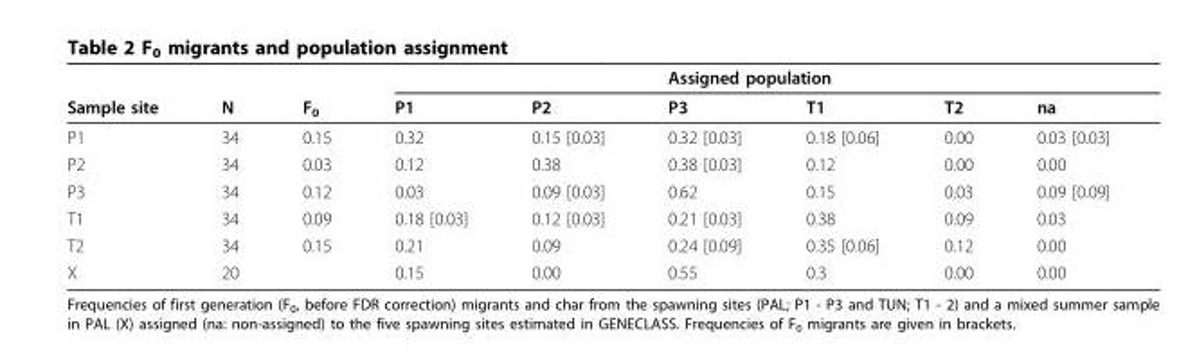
<table><thead><tr><td rowspan="2">Sample site</td><td rowspan="2">N</td><td rowspan="2">F<sub>0</sub></td><td rowspan="2">P1</td><td rowspan="2">P2</td><td colspan="2">Assigned population</td><td rowspan="2">T2</td><td rowspan="2">na</td></tr><tr><td>P3</td><td>T1</td></tr></thead><tbody><tr><td>P1</td><td>34</td><td>0.15</td><td>0.32</td><td>0.15 [0.03]</td><td>0.32 [0.03]</td><td>0.18 [0.06]</td><td>0.00</td><td>0.03 [0.03]</td></tr><tr><td>P2</td><td>34</td><td>0.03</td><td>0.12</td><td>0.38</td><td>0.38 [0.03]</td><td>0.12</td><td>0.00</td><td>0.00</td></tr><tr><td>P3</td><td>34</td><td>0.12</td><td>0.03</td><td>0.09 [0.03]</td><td>0.62</td><td>0.15</td><td>0.03</td><td>0.09 [0.09]</td></tr><tr><td>T1</td><td>34</td><td>0.09</td><td>0.18 [0.03]</td><td>0.12 [0.03]</td><td>0.21 [0.03]</td><td>0.38</td><td>0.09</td><td>0.03</td></tr><tr><td>T2</td><td>34</td><td>0.15</td><td>0.21</td><td>0.09</td><td>0.24 [0.09]</td><td>0.35 [0.06]</td><td>0.12</td><td>0.00</td></tr><tr><td>X</td><td>20</td><td></td><td>0.15</td><td>0.00</td><td>0.55</td><td>0.3</td><td>0.00</td><td>0.00</td></tr></tbody></table>